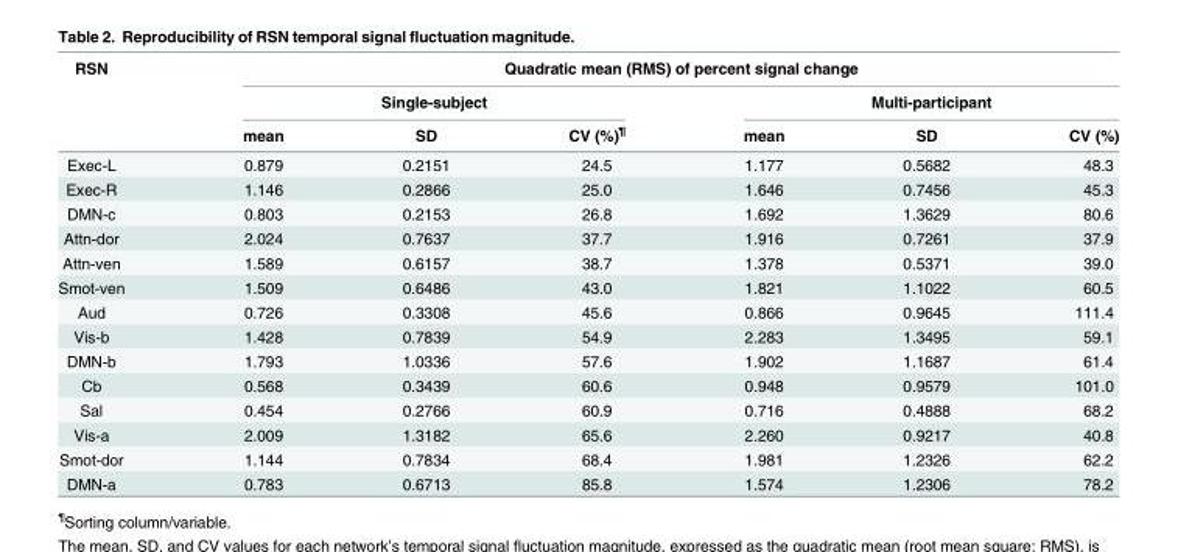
<table><thead><tr><td rowspan="3">RSN</td><td colspan="6">Quadratic mean (RMS) of percent signal change</td></tr><tr><td colspan="3">Single-subject</td><td colspan="3">Multi-participant</td></tr><tr><td>mean</td><td>SD</td><td>CV (%)<sup>¶</sup></td><td>mean</td><td>SD</td><td>CV (%)</td></tr></thead><tbody><tr><td>Exec-L</td><td>0.879</td><td>0.2151</td><td>24.5</td><td>1.177</td><td>0.5682</td><td>48.3</td></tr><tr><td>Exec-R</td><td>1.146</td><td>0.2866</td><td>25.0</td><td>1.646</td><td>0.7456</td><td>45.3</td></tr><tr><td>DMN-c</td><td>0.803</td><td>0.2153</td><td>26.8</td><td>1.692</td><td>1.3629</td><td>80.6</td></tr><tr><td>Attn-dor</td><td>2.024</td><td>0.7637</td><td>37.7</td><td>1.916</td><td>0.7261</td><td>37.9</td></tr><tr><td>Attn-ven</td><td>1.589</td><td>0.6157</td><td>38.7</td><td>1.378</td><td>0.5371</td><td>39.0</td></tr><tr><td>Smot-ven</td><td>1.509</td><td>0.6486</td><td>43.0</td><td>1.821</td><td>1.1022</td><td>60.5</td></tr><tr><td>Aud</td><td>0.726</td><td>0.3308</td><td>45.6</td><td>0.866</td><td>0.9645</td><td>111.4</td></tr><tr><td>Vis-b</td><td>1.428</td><td>0.7839</td><td>54.9</td><td>2.283</td><td>1.3495</td><td>59.1</td></tr><tr><td>DMN-b</td><td>1.793</td><td>1.0336</td><td>57.6</td><td>1.902</td><td>1.1687</td><td>61.4</td></tr><tr><td>Cb</td><td>0.568</td><td>0.3439</td><td>60.6</td><td>0.948</td><td>0.9579</td><td>101.0</td></tr><tr><td>Sal</td><td>0.454</td><td>0.2766</td><td>60.9</td><td>0.716</td><td>0.4888</td><td>68.2</td></tr><tr><td>Vis-a</td><td>2.009</td><td>1.3182</td><td>65.6</td><td>2.260</td><td>0.9217</td><td>40.8</td></tr><tr><td>Smot-dor</td><td>1.144</td><td>0.7834</td><td>68.4</td><td>1.981</td><td>1.2326</td><td>62.2</td></tr><tr><td>DMN-a</td><td>0.783</td><td>0.6713</td><td>85.8</td><td>1.574</td><td>1.2306</td><td>78.2</td></tr></tbody></table>